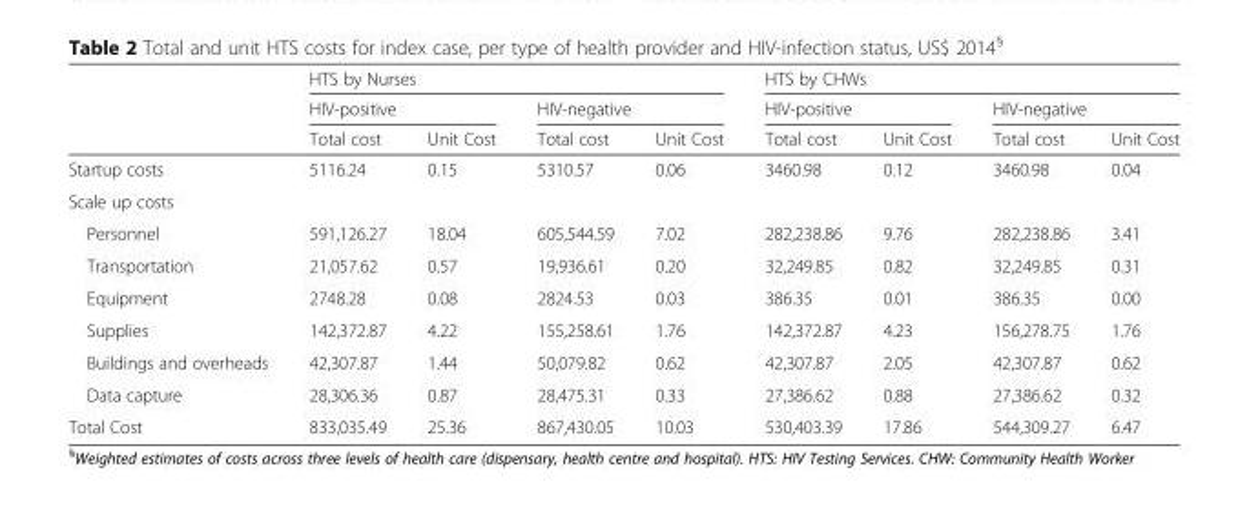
<table><thead><tr><td rowspan="3"></td><td colspan="4">HTS by Nurses</td><td colspan="4">HTS by CHWs</td></tr><tr><td colspan="2">HIV-positive</td><td colspan="2">HIV-negative</td><td colspan="2">HIV-positive</td><td colspan="2">HIV-negative</td></tr><tr><td>Total cost</td><td>Unit Cost</td><td>Total cost</td><td>Unit Cost</td><td>Total cost</td><td>Unit Cost</td><td>Total cost</td><td>Unit Cost</td></tr></thead><tbody><tr><td>Startup costs</td><td>5116.24</td><td>0.15</td><td>5310.57</td><td>0.06</td><td>3460.98</td><td>0.12</td><td>3460.98</td><td>0.04</td></tr><tr><td colspan="9">Scale up costs</td></tr><tr><td>Personnel</td><td>591,126.27</td><td>18.04</td><td>605,544.59</td><td>7.02</td><td>282,238.86</td><td>9.76</td><td>282,238.86</td><td>3.41</td></tr><tr><td>Transportation</td><td>21,057.62</td><td>0.57</td><td>19,936.61</td><td>0.20</td><td>32,249.85</td><td>0.82</td><td>32,249.85</td><td>0.31</td></tr><tr><td>Equipment</td><td>2748.28</td><td>0.08</td><td>2824.53</td><td>0.03</td><td>386.35</td><td>0.01</td><td>386.35</td><td>0.00</td></tr><tr><td>Supplies</td><td>142,372.87</td><td>4.22</td><td>155,258.61</td><td>1.76</td><td>142,372.87</td><td>4.23</td><td>156,278.75</td><td>1.76</td></tr><tr><td>Buildings and overheads</td><td>42,307.87</td><td>1.44</td><td>50,079.82</td><td>0.62</td><td>42,307.87</td><td>2.05</td><td>42,307.87</td><td>0.62</td></tr><tr><td>Data capture</td><td>28,306.36</td><td>0.87</td><td>28,475.31</td><td>0.33</td><td>27,386.62</td><td>0.88</td><td>27,386.62</td><td>0.32</td></tr><tr><td>Total Cost</td><td>833,035.49</td><td>25.36</td><td>867,430.05</td><td>10.03</td><td>530,403.39</td><td>17.86</td><td>544,309.27</td><td>6.47</td></tr></tbody></table>